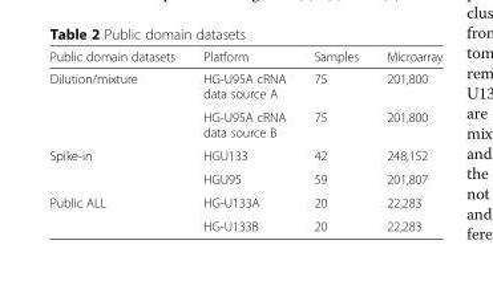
<table><thead><tr><td>Public domain datasets</td><td>Platform</td><td>Samples</td><td>Microarray</td></tr></thead><tbody><tr><td rowspan="2">Dilution/mixture</td><td>HG-U95A cRNA data source A</td><td>75</td><td>201,800</td></tr><tr><td>HG-U95A cRNA data source B</td><td>75</td><td>201,800</td></tr><tr><td rowspan="2">Spike-in</td><td>HGU133</td><td>42</td><td>248,152</td></tr><tr><td>HGU95</td><td>59</td><td>201,807</td></tr><tr><td rowspan="2">Public ALL</td><td>HG-U133A</td><td>20</td><td>22,283</td></tr><tr><td>HG-U133B</td><td>20</td><td>22,283</td></tr></tbody></table>